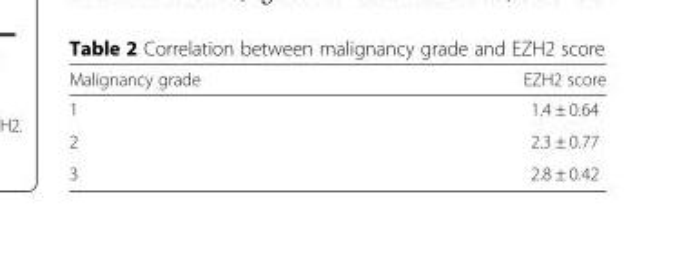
<table><thead><tr><td>Malignancy grade</td><td>EZH2 score</td></tr></thead><tbody><tr><td>1</td><td>1.4 ± 0.64</td></tr><tr><td>2</td><td>2.3 ± 0.77</td></tr><tr><td>3</td><td>2.8 ± 0.42</td></tr></tbody></table>